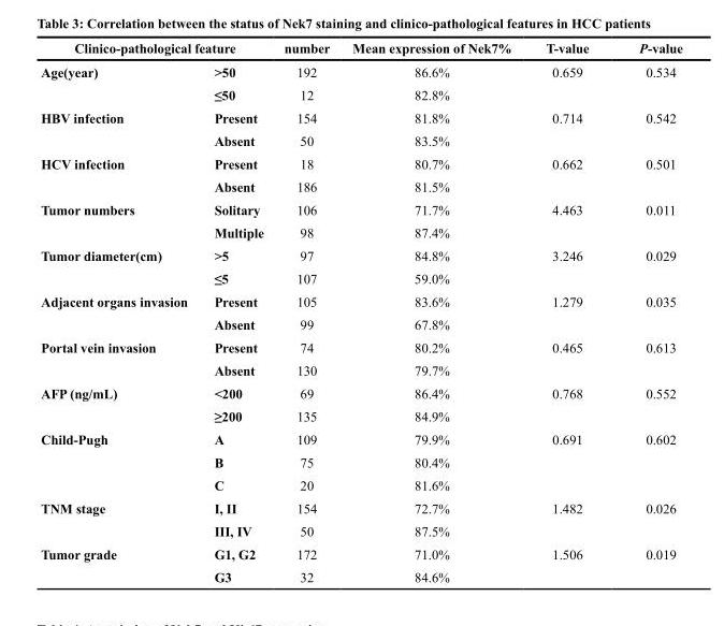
<table><thead><tr><td colspan="2">Clinico-pathological feature</td><td rowspan="2">number 192</td><td rowspan="2">Mean expression of Nek7% 86.6%</td><td rowspan="2">T-value 0.659</td><td rowspan="2">P-value 0.534</td></tr><tr><td>Age(year)</td><td>&gt;50</td></tr></thead><tbody><tr><td></td><td>≤50</td><td>12</td><td>82.8%</td><td></td><td></td></tr><tr><td rowspan="2">HBV infection</td><td>Present</td><td>154</td><td>81.8%</td><td>0.714</td><td>0.542</td></tr><tr><td>Absent</td><td>50</td><td>83.5%</td><td></td><td></td></tr><tr><td rowspan="2">HCV infection</td><td>Present</td><td>18</td><td>80.7%</td><td>0.662</td><td>0.501</td></tr><tr><td>Absent</td><td>186</td><td>81.5%</td><td></td><td></td></tr><tr><td rowspan="2">Tumor numbers</td><td>Solitary</td><td>106</td><td>71.7%</td><td>4.463</td><td>0.011</td></tr><tr><td>Multiple</td><td>98</td><td>87.4%</td><td></td><td></td></tr><tr><td rowspan="2">Tumor diameter(cm)</td><td>&gt;5</td><td>97</td><td>84.8%</td><td>3.246</td><td>0.029</td></tr><tr><td>≤5</td><td>107</td><td>59.0%</td><td></td><td></td></tr><tr><td rowspan="2">Adjacent organs invasion</td><td>Present</td><td>105</td><td>83.6%</td><td>1.279</td><td>0.035</td></tr><tr><td>Absent</td><td>99</td><td>67.8%</td><td></td><td></td></tr><tr><td rowspan="2">Portal vein invasion</td><td>Present</td><td>74</td><td>80.2%</td><td>0.465</td><td>0.613</td></tr><tr><td>Absent</td><td>130</td><td>79.7%</td><td></td><td></td></tr><tr><td rowspan="2">AFP (ng/mL)</td><td>&lt;200</td><td>69</td><td>86.4%</td><td>0.768</td><td>0.552</td></tr><tr><td>≥200</td><td>135</td><td>84.9%</td><td></td><td></td></tr><tr><td rowspan="3">Child-Pugh</td><td>A</td><td>109</td><td>79.9%</td><td>0.691</td><td>0.602</td></tr><tr><td>B</td><td>75</td><td>80.4%</td><td></td><td></td></tr><tr><td>C</td><td>20</td><td>81.6%</td><td></td><td></td></tr><tr><td rowspan="2">TNM stage</td><td>I, II</td><td>154</td><td>72.7%</td><td>1.482</td><td>0.026</td></tr><tr><td>III, IV</td><td>50</td><td>87.5%</td><td></td><td></td></tr><tr><td rowspan="2">Tumor grade</td><td>G1, G2</td><td>172</td><td>71.0%</td><td>1.506</td><td>0.019</td></tr><tr><td>G3</td><td>32</td><td>84.6%</td><td></td><td></td></tr></tbody></table>